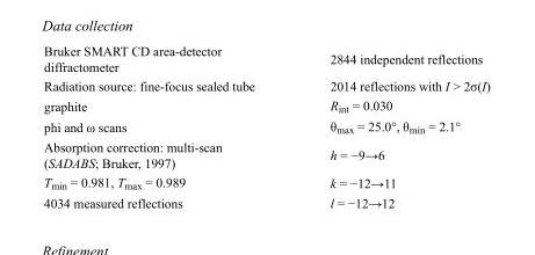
<table><tbody><tr><td>Bruker SMART CD area-detector diffractometer</td><td>2844 independent reflections</td></tr><tr><td>Radiation source: fine-focus sealed tube</td><td>2014 reflections with I &gt; 2σ(I)</td></tr><tr><td>graphite</td><td>R<sub>int</sub> = 0.030</td></tr><tr><td>phi and ω scans</td><td>θ<sub>max</sub> = 25.0°, θ<sub>min</sub> = 2.1°</td></tr><tr><td>Absorption correction: multi-scan (SADABS; Bruker, 1997)</td><td>h = −9→6</td></tr><tr><td>T<sub>min</sub> = 0.981, T<sub>max</sub> = 0.989</td><td>k = −12→11</td></tr><tr><td>4034 measured reflections</td><td>l = −12→12</td></tr></tbody></table>